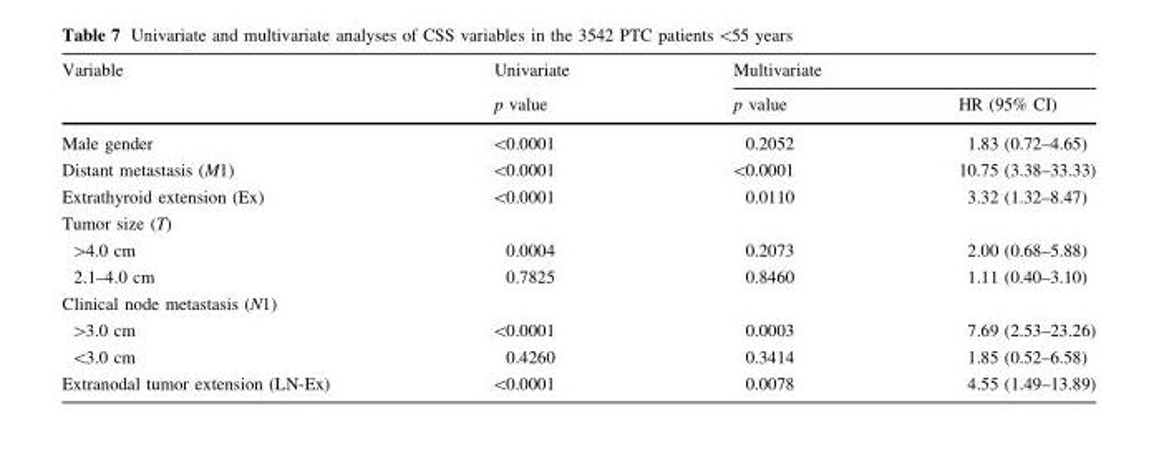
<table><thead><tr><td rowspan="2">Variable</td><td rowspan="2">Univariate p value</td><td colspan="2">Multivariate</td></tr><tr><td>p value</td><td>HR (95% CI)</td></tr></thead><tbody><tr><td>Male gender</td><td>&lt;0.0001</td><td>0.2052</td><td>1.83 (0.72–4.65)</td></tr><tr><td>Distant metastasis (M1)</td><td>&lt;0.0001</td><td>&lt;0.0001</td><td>10.75 (3.38–33.33)</td></tr><tr><td>Extrathyroid extension (Ex)</td><td>&lt;0.0001</td><td>0.0110</td><td>3.32 (1.32–8.47)</td></tr><tr><td colspan="4">Tumor size (T)</td></tr><tr><td>&gt;4.0 cm</td><td>0.0004</td><td>0.2073</td><td>2.00 (0.68–5.88)</td></tr><tr><td>2.1–4.0 cm</td><td>0.7825</td><td>0.8460</td><td>1.11 (0.40–3.10)</td></tr><tr><td colspan="4">Clinical node metastasis (N1)</td></tr><tr><td>&gt;3.0 cm</td><td>&lt;0.0001</td><td>0.0003</td><td>7.69 (2.53–23.26)</td></tr><tr><td>&lt;3.0 cm</td><td>0.4260</td><td>0.3414</td><td>1.85 (0.52–6.58)</td></tr><tr><td>Extranodal tumor extension (LN-Ex)</td><td>&lt;0.0001</td><td>0.0078</td><td>4.55 (1.49–13.89)</td></tr></tbody></table>